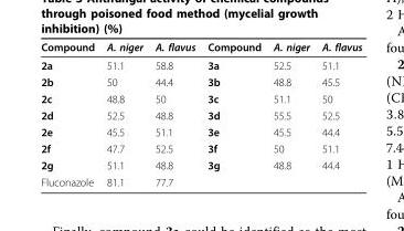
<table><thead><tr><td>Compound</td><td>A. niger</td><td>A. flavus</td><td>Compound</td><td>A. niger</td><td>A. flavus</td></tr></thead><tbody><tr><td>2a</td><td>51.1</td><td>58.8</td><td>3a</td><td>52.5</td><td>51.1</td></tr><tr><td>2b</td><td>50</td><td>44.4</td><td>3b</td><td>48.8</td><td>45.5</td></tr><tr><td>2c</td><td>48.8</td><td>50</td><td>3c</td><td>51.1</td><td>50</td></tr><tr><td>2d</td><td>52.5</td><td>48.8</td><td>3d</td><td>55.5</td><td>52.5</td></tr><tr><td>2e</td><td>45.5</td><td>51.1</td><td>3e</td><td>45.5</td><td>44.4</td></tr><tr><td>2f</td><td>47.7</td><td>52.5</td><td>3f</td><td>50</td><td>51.1</td></tr><tr><td>2g</td><td>51.1</td><td>48.8</td><td>3g</td><td>48.8</td><td>44.4</td></tr><tr><td>Fluconazole</td><td>81.1</td><td>77.7</td><td></td><td></td><td></td></tr></tbody></table>